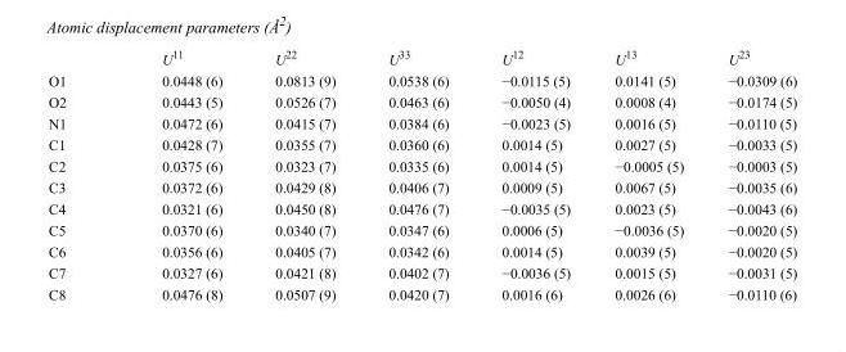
<table><thead><tr><td></td><td>U<sup>11</sup></td><td>U<sup>22</sup></td><td>U<sup>33</sup></td><td>U<sup>12</sup></td><td>U<sup>13</sup></td><td>U<sup>23</sup></td></tr></thead><tbody><tr><td>O1</td><td>0.0448 (6)</td><td>0.0813 (9)</td><td>0.0538 (6)</td><td>−0.0115 (5)</td><td>0.0141 (5)</td><td>−0.0309 (6)</td></tr><tr><td>O2</td><td>0.0443 (5)</td><td>0.0526 (7)</td><td>0.0463 (6)</td><td>−0.0050 (4)</td><td>0.0008 (4)</td><td>−0.0174 (5)</td></tr><tr><td>N1</td><td>0.0472 (6)</td><td>0.0415 (7)</td><td>0.0384 (6)</td><td>−0.0023 (5)</td><td>0.0016 (5)</td><td>−0.0110 (5)</td></tr><tr><td>C1</td><td>0.0428 (7)</td><td>0.0355 (7)</td><td>0.0360 (6)</td><td>0.0014 (5)</td><td>0.0027 (5)</td><td>−0.0033 (5)</td></tr><tr><td>C2</td><td>0.0375 (6)</td><td>0.0323 (7)</td><td>0.0335 (6)</td><td>0.0014 (5)</td><td>−0.0005 (5)</td><td>−0.0003 (5)</td></tr><tr><td>C3</td><td>0.0372 (6)</td><td>0.0429 (8)</td><td>0.0406 (7)</td><td>0.0009 (5)</td><td>0.0067 (5)</td><td>−0.0035 (6)</td></tr><tr><td>C4</td><td>0.0321 (6)</td><td>0.0450 (8)</td><td>0.0476 (7)</td><td>−0.0035 (5)</td><td>0.0023 (5)</td><td>−0.0043 (6)</td></tr><tr><td>C5</td><td>0.0370 (6)</td><td>0.0340 (7)</td><td>0.0347 (6)</td><td>0.0006 (5)</td><td>−0.0036 (5)</td><td>−0.0020 (5)</td></tr><tr><td>C6</td><td>0.0356 (6)</td><td>0.0405 (7)</td><td>0.0342 (6)</td><td>0.0014 (5)</td><td>0.0039 (5)</td><td>−0.0020 (5)</td></tr><tr><td>C7</td><td>0.0327 (6)</td><td>0.0421 (8)</td><td>0.0402 (7)</td><td>−0.0036 (5)</td><td>0.0015 (5)</td><td>−0.0031 (5)</td></tr><tr><td>C8</td><td>0.0476 (8)</td><td>0.0507 (9)</td><td>0.0420 (7)</td><td>0.0016 (6)</td><td>0.0026 (6)</td><td>−0.0110 (6)</td></tr></tbody></table>